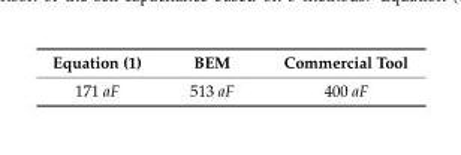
<table><thead><tr><td>Equation (1)</td><td>BEM</td><td>Commercial Tool</td></tr></thead><tbody><tr><td>171 aF</td><td>513 aF</td><td>400 aF</td></tr></tbody></table>